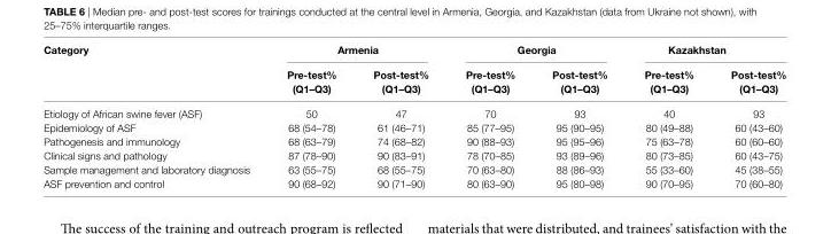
<table><thead><tr><td rowspan="2">Category</td><td colspan="2">armenia</td><td colspan="2">georgia</td><td colspan="2">Kazakhstan</td></tr><tr><td>Pre-test% (Q1–Q3)</td><td>Post-test% (Q1–Q3)</td><td>Pre-test% (Q1–Q3)</td><td>Post-test% (Q1–Q3)</td><td>Pre-test% (Q1–Q3)</td><td>Post-test% (Q1–Q3)</td></tr></thead><tbody><tr><td>Etiology of African swine fever (ASF)</td><td>50</td><td>47</td><td>70</td><td>93</td><td>40</td><td>93</td></tr><tr><td>Epidemiology of ASF</td><td>68 (54–78)</td><td>61 (46–71)</td><td>85 (77–95)</td><td>95 (90–95)</td><td>80 (49–88)</td><td>60 (43–60)</td></tr><tr><td>Pathogenesis and immunology</td><td>68 (63–79)</td><td>74 (68–82)</td><td>90 (88–93)</td><td>95 (95–96)</td><td>75 (63–78)</td><td>60 (60–60)</td></tr><tr><td>Clinical signs and pathology</td><td>87 (78–90)</td><td>90 (83–91)</td><td>78 (70–85)</td><td>93 (89–96)</td><td>80 (73–85)</td><td>60 (43–75)</td></tr><tr><td>Sample management and laboratory diagnosis</td><td>63 (55–75)</td><td>68 (55–75)</td><td>70 (63–80)</td><td>88 (86–93)</td><td>55 (33–60)</td><td>45 (38–55)</td></tr><tr><td>ASF prevention and control</td><td>90 (68–92)</td><td>90 (71–90)</td><td>80 (63–90)</td><td>95 (80–98)</td><td>90 (70–95)</td><td>70 (60–80)</td></tr></tbody></table>